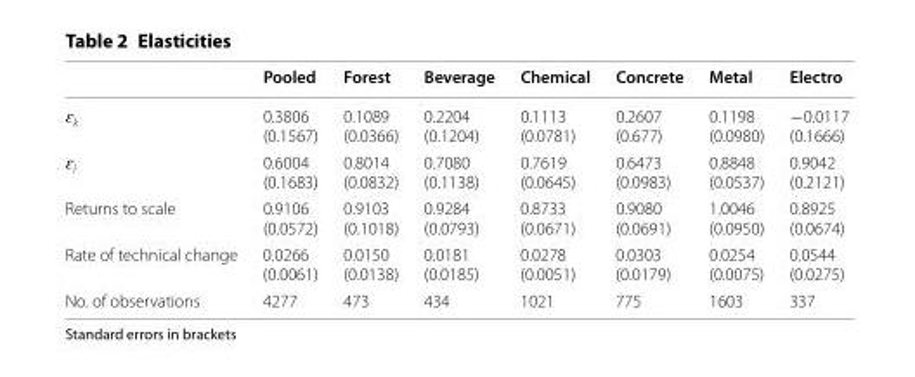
<table><thead><tr><td></td><td>Pooled</td><td>Forest</td><td>Beverage</td><td>Chemical</td><td>Concrete</td><td>Metal</td><td>Electro</td></tr></thead><tbody><tr><td>ɛ<sub>k</sub></td><td>0.3806 (0.1567)</td><td>0.1089 (0.0366)</td><td>0.2204 (0.1204)</td><td>0.1113 (0.0781)</td><td>0.2607 (0.677)</td><td>0.1198 (0.0980)</td><td>−0.0117 (0.1666)</td></tr><tr><td>ɛ<sub>l</sub></td><td>0.6004 (0.1683)</td><td>0.8014 (0.0832)</td><td>0.7080 (0.1138)</td><td>0.7619 (0.0645)</td><td>0.6473 (0.0983)</td><td>0.8848 (0.0537)</td><td>0.9042 (0.2121)</td></tr><tr><td>Returns to scale</td><td>0.9106 (0.0572)</td><td>0.9103 (0.1018)</td><td>0.9284 (0.0793)</td><td>0.8733 (0.0671)</td><td>0.9080 (0.0691)</td><td>1.0046 (0.0950)</td><td>0.8925 (0.0674)</td></tr><tr><td>Rate of technical change</td><td>0.0266 (0.0061)</td><td>0.0150 (0.0138)</td><td>0.0181 (0.0185)</td><td>0.0278 (0.0051)</td><td>0.0303 (0.0179)</td><td>0.0254 (0.0075)</td><td>0.0544 (0.0275)</td></tr><tr><td>No. of observations</td><td>4277</td><td>473</td><td>434</td><td>1021</td><td>775</td><td>1603</td><td>337</td></tr></tbody></table>